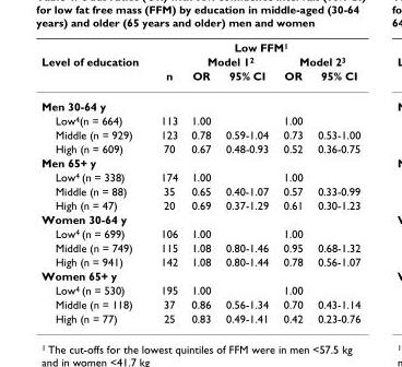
<table><thead><tr><td rowspan="3">Level of education</td><td colspan="5">Low FFM<sup>1</sup></td></tr><tr><td rowspan="2">n</td><td colspan="2">Model 1<sup>2</sup></td><td colspan="2">Model 2<sup>3</sup></td></tr><tr><td>OR</td><td>95% CI</td><td>OR</td><td>95% CI</td></tr></thead><tbody><tr><td colspan="6">Men 30-64 y</td></tr><tr><td>Low<sup>4</sup>(n = 664)</td><td>113</td><td>1.00</td><td></td><td>1.00</td><td></td></tr><tr><td>Middle (n = 929)</td><td>123</td><td>0.78</td><td>0.59-1.04</td><td>0.73</td><td>0.53-1.00</td></tr><tr><td>High (n = 609)</td><td>70</td><td>0.67</td><td>0.48-0.93</td><td>0.52</td><td>0.36-0.75</td></tr><tr><td colspan="6">Men 65+ y</td></tr><tr><td>Low<sup>4</sup> (n = 338)</td><td>174</td><td>1.00</td><td></td><td>1.00</td><td></td></tr><tr><td>Middle (n = 88)</td><td>35</td><td>0.65</td><td>0.40-1.07</td><td>0.57</td><td>0.33-0.99</td></tr><tr><td>High (n = 47)</td><td>20</td><td>0.69</td><td>0.37-1.29</td><td>0.61</td><td>0.30-1.23</td></tr><tr><td colspan="6">Women 30-64 y</td></tr><tr><td>Low<sup>4</sup> (n = 699)</td><td>106</td><td>1.00</td><td></td><td>1.00</td><td></td></tr><tr><td>Middle (n = 749)</td><td>115</td><td>1.08</td><td>0.80-1.46</td><td>0.95</td><td>0.68-1.32</td></tr><tr><td>High (n = 941)</td><td>142</td><td>1.08</td><td>0.80-1.44</td><td>0.78</td><td>0.56-1.07</td></tr><tr><td colspan="6">Women 65+ y</td></tr><tr><td>Low<sup>4</sup> (n = 530)</td><td>195</td><td>1.00</td><td></td><td>1.00</td><td></td></tr><tr><td>Middle (n = 118)</td><td>37</td><td>0.86</td><td>0.56-1.34</td><td>0.70</td><td>0.43-1.14</td></tr><tr><td>High (n = 77)</td><td>25</td><td>0.83</td><td>0.49-1.41</td><td>0.42</td><td>0.23-0.76</td></tr></tbody></table>